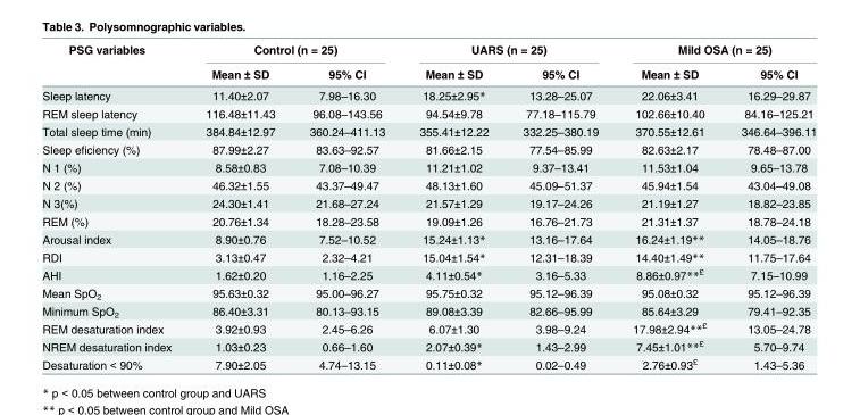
<table><thead><tr><td rowspan="2">PSG variables</td><td colspan="2">Control (n = 25)</td><td colspan="2">UARS (n = 25)</td><td colspan="2">Mild OSA (n = 25)</td></tr><tr><td>Mean ± SD</td><td>95% CI</td><td>Mean ± SD</td><td>95% CI</td><td>Mean ± SD</td><td>95% CI</td></tr></thead><tbody><tr><td>Sleep latency</td><td>11.40±2.07</td><td>7.98–16.30</td><td>18.25±2.95*</td><td>13.28–25.07</td><td>22.06±3.41</td><td>16.29–29.87</td></tr><tr><td>REM sleep latency</td><td>116.48±11.43</td><td>96.08–143.56</td><td>94.54±9.78</td><td>77.18–115.79</td><td>102.66±10.40</td><td>84.16–125.21</td></tr><tr><td>Total sleep time (min)</td><td>384.84±12.97</td><td>360.24–411.13</td><td>355.41±12.22</td><td>332.25–380.19</td><td>370.55±12.61</td><td>346.64–396.11</td></tr><tr><td>Sleep eficiency (%)</td><td>87.99±2.27</td><td>83.63–92.57</td><td>81.66±2.15</td><td>77.54–85.99</td><td>82.63±2.17</td><td>78.48–87.00</td></tr><tr><td>N 1 (%)</td><td>8.58±0.83</td><td>7.08–10.39</td><td>11.21±1.02</td><td>9.37–13.41</td><td>11.53±1.04</td><td>9.65–13.78</td></tr><tr><td>N 2 (%)</td><td>46.32±1.55</td><td>43.37–49.47</td><td>48.13±1.60</td><td>45.09–51.37</td><td>45.94±1.54</td><td>43.04–49.08</td></tr><tr><td>N 3(%)</td><td>24.30±1.41</td><td>21.68–27.24</td><td>21.57±1.29</td><td>19.17–24.26</td><td>21.19±1.27</td><td>18.82–23.85</td></tr><tr><td>REM (%)</td><td>20.76±1.34</td><td>18.28–23.58</td><td>19.09±1.26</td><td>16.76–21.73</td><td>21.31±1.37</td><td>18.78–24.18</td></tr><tr><td>Arousal index</td><td>8.90±0.76</td><td>7.52–10.52</td><td>15.24±1.13*</td><td>13.16–17.64</td><td>16.24±1.19**</td><td>14.05–18.76</td></tr><tr><td>RDI</td><td>3.13±0.47</td><td>2.32–4.21</td><td>15.04±1.54*</td><td>12.31–18.39</td><td>14.40±1.49**</td><td>11.75–17.64</td></tr><tr><td>AHI</td><td>1.62±0.20</td><td>1.16–2.25</td><td>4.11±0.54*</td><td>3.16–5.33</td><td>8.86±0.97**<sup>£</sup></td><td>7.15–10.99</td></tr><tr><td>Mean SpO<sub>2</sub></td><td>95.63±0.32</td><td>95.00–96.27</td><td>95.75±0.32</td><td>95.12–96.39</td><td>95.08±0.32</td><td>95.12–96.39</td></tr><tr><td>Minimum SpO<sub>2</sub></td><td>86.40±3.31</td><td>80.13–93.15</td><td>89.08±3.39</td><td>82.66–95.99</td><td>85.64±3.29</td><td>79.41–92.35</td></tr><tr><td>REM desaturation index</td><td>3.92±0.93</td><td>2.45–6.26</td><td>6.07±1.30</td><td>3.98–9.24</td><td>17.98±2.94**<sup>£</sup></td><td>13.05–24.78</td></tr><tr><td>NREM desaturation index</td><td>1.03±0.23</td><td>0.66–1.60</td><td>2.07±0.39*</td><td>1.43–2.99</td><td>7.45±1.01**<sup>£</sup></td><td>5.70–9.74</td></tr><tr><td>Desaturation &lt; 90%</td><td>7.90±2.05</td><td>4.74–13.15</td><td>0.11±0.08*</td><td>0.02–0.49</td><td>2.76±0.93<sup>£</sup></td><td>1.43–5.36</td></tr></tbody></table>